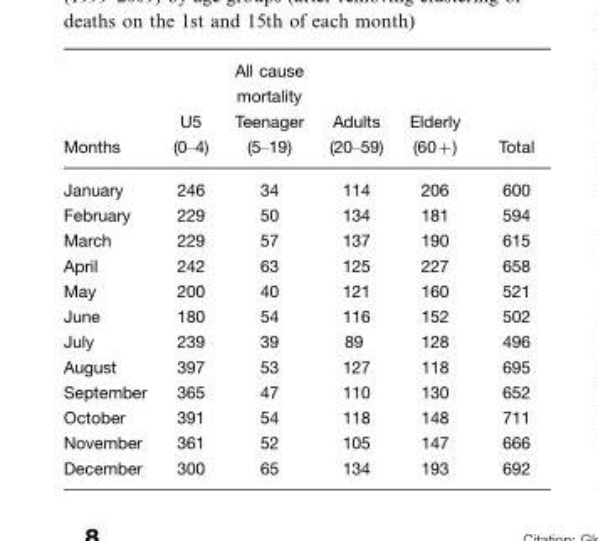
<table><thead><tr><td>Months</td><td>U5 (0–4)</td><td>All cause mortality Teenager (5�19)</td><td>Adults (20–59)</td><td>Elderly (60+)</td><td>Total</td></tr></thead><tbody><tr><td>January</td><td>246</td><td>34</td><td>114</td><td>206</td><td>600</td></tr><tr><td>February</td><td>229</td><td>50</td><td>134</td><td>181</td><td>594</td></tr><tr><td>March</td><td>229</td><td>57</td><td>137</td><td>190</td><td>615</td></tr><tr><td>April</td><td>242</td><td>63</td><td>125</td><td>227</td><td>658</td></tr><tr><td>May</td><td>200</td><td>40</td><td>121</td><td>160</td><td>521</td></tr><tr><td>June</td><td>180</td><td>54</td><td>116</td><td>152</td><td>502</td></tr><tr><td>July</td><td>239</td><td>39</td><td>89</td><td>128</td><td>496</td></tr><tr><td>August</td><td>397</td><td>53</td><td>127</td><td>118</td><td>695</td></tr><tr><td>September</td><td>365</td><td>47</td><td>110</td><td>130</td><td>652</td></tr><tr><td>October</td><td>391</td><td>54</td><td>118</td><td>148</td><td>711</td></tr><tr><td>November</td><td>361</td><td>52</td><td>105</td><td>147</td><td>666</td></tr><tr><td>December</td><td>300</td><td>65</td><td>134</td><td>193</td><td>692</td></tr></tbody></table>